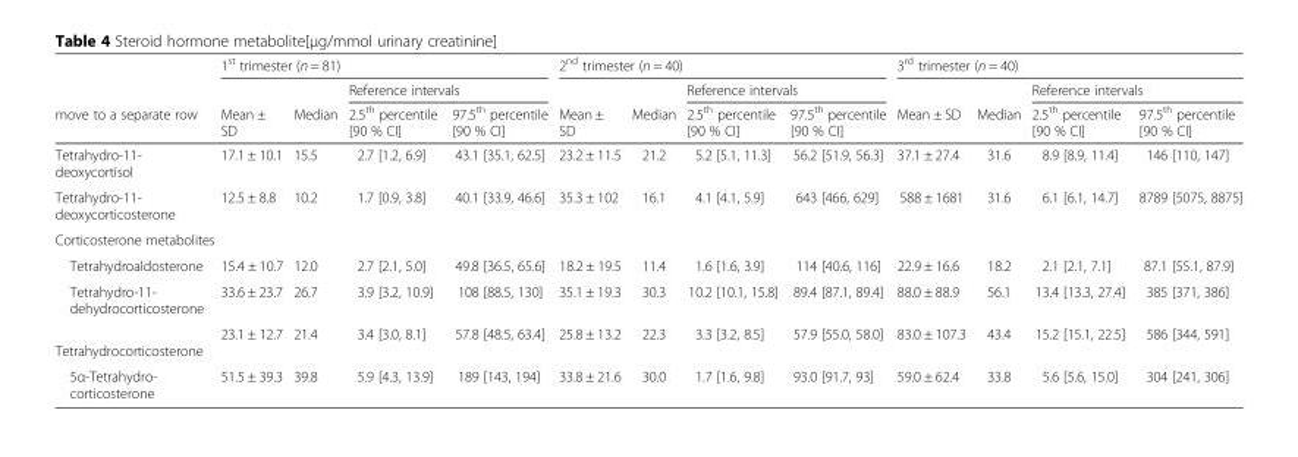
<table><thead><tr><td rowspan="3">move to a separate row</td><td colspan="4">1<sup>st</sup> trimester (n = 81)</td><td colspan="4">2<sup>nd</sup> trimester (n = 40)</td><td colspan="4">3<sup>rd</sup> trimester (n = 40)</td></tr><tr><td rowspan="2">Mean ± SD</td><td rowspan="2">Median</td><td colspan="2">Reference intervals</td><td rowspan="2">Mean ± SD</td><td rowspan="2">Median</td><td colspan="2">Reference intervals</td><td rowspan="2">Mean ± SD</td><td rowspan="2">Median</td><td colspan="2">Reference intervals</td></tr><tr><td>2.5<sup>th</sup> percentile [90 % CI]</td><td>97.5<sup>th</sup> percentile [90 % CI]</td><td>2.5<sup>th</sup> percentile [90 % CI]</td><td>97.5<sup>th</sup> percentile [90 % CI]</td><td>2.5<sup>th</sup> percentile [90 % CI]</td><td>97.5<sup>th</sup> percentile [90 % CI]</td></tr></thead><tbody><tr><td>Tetrahydro-11- deoxycortisol</td><td>17.1 ± 10.1</td><td>15.5</td><td>2.7 [1.2, 6.9]</td><td>43.1 [35.1, 62.5]</td><td>23.2 ± 11.5</td><td>21.2</td><td>5.2 [5.1, 11.3]</td><td>56.2 [51.9, 56.3]</td><td>37.1 ± 27.4</td><td>31.6</td><td>8.9 [8.9, 11.4]</td><td>146 [110, 147]</td></tr><tr><td>Tetrahydro-11- deoxycorticosterone</td><td>12.5 ± 8.8</td><td>10.2</td><td>1.7 [0.9, 3.8]</td><td>40.1 [33.9, 46.6]</td><td>35.3 ± 102</td><td>16.1</td><td>4.1 [4.1, 5.9]</td><td>643 [466, 629]</td><td>588 ± 1681</td><td>31.6</td><td>6.1 [6.1, 14.7]</td><td>8789 [5075, 8875]</td></tr><tr><td colspan="13">Corticosterone metabolites</td></tr><tr><td>Tetrahydroaldosterone</td><td>15.4 ± 10.7</td><td>12.0</td><td>2.7 [2.1, 5.0]</td><td>49.8 [36.5, 65.6]</td><td>18.2 ± 19.5</td><td>11.4</td><td>1.6 [1.6, 3.9]</td><td>114 [40.6, 116]</td><td>22.9 ± 16.6</td><td>18.2</td><td>2.1 [2.1, 7.1]</td><td>87.1 [55.1, 87.9]</td></tr><tr><td>Tetrahydro-11- dehydrocorticosterone</td><td>33.6 ± 23.7</td><td>26.7</td><td>3.9 [3.2, 10.9]</td><td>108 [88.5, 130]</td><td>35.1 ± 19.3</td><td>30.3</td><td>10.2 [10.1, 15.8]</td><td>89.4 [87.1, 89.4]</td><td>88.0 ± 88.9</td><td>56.1</td><td>13.4 [13.3, 27.4]</td><td>385 [371, 386]</td></tr><tr><td>Tetrahydrocorticosterone</td><td>23.1 ± 12.7</td><td>21.4</td><td>3.4 [3.0, 8.1]</td><td>57.8 [48.5, 63.4]</td><td>25.8 ± 13.2</td><td>22.3</td><td>3.3 [3.2, 8.5]</td><td>57.9 [55.0, 58.0]</td><td>83.0 ± 107.3</td><td>43.4</td><td>15.2 [15.1, 22.5]</td><td>586 [344, 591]</td></tr><tr><td>5α-Tetrahydro- corticosterone</td><td>51.5 ± 39.3</td><td>39.8</td><td>5.9 [4.3, 13.9]</td><td>189 [143, 194]</td><td>33.8 ± 21.6</td><td>30.0</td><td>1.7 [1.6, 9.8]</td><td>93.0 [91.7, 93]</td><td>59.0 ± 62.4</td><td>33.8</td><td>5.6 [5.6, 15.0]</td><td>304 [241, 306]</td></tr></tbody></table>